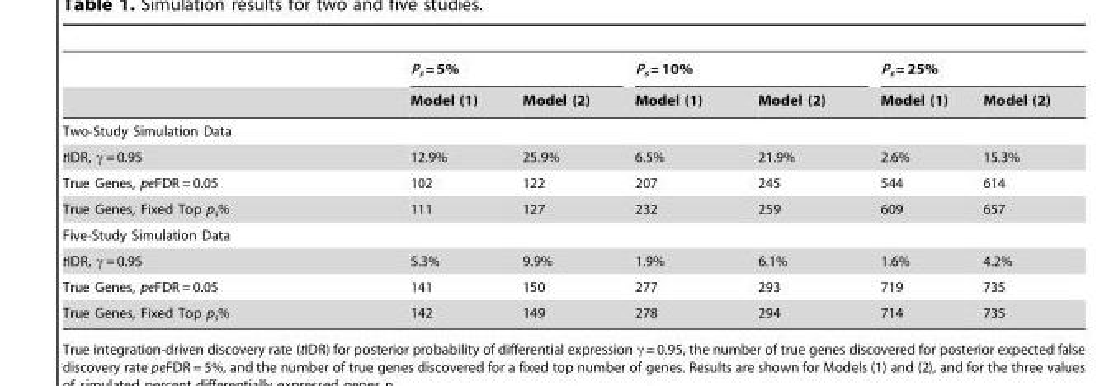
<table><thead><tr><td rowspan="2"></td><td colspan="2">P<sub>s</sub> = 5%</td><td colspan="2">P<sub>s</sub> = 10%</td><td colspan="2">P<sub>s</sub> = 25%</td></tr><tr><td>Model (1)</td><td>Model (2)</td><td>Model (1)</td><td>Model (2)</td><td>Model (1)</td><td>Model (2)</td></tr></thead><tbody><tr><td colspan="7">Two-Study Simulation Data</td></tr><tr><td>tIDR, γ = 0.95</td><td>12.9%</td><td>25.9%</td><td>6.5%</td><td>21.9%</td><td>2.6%</td><td>15.3%</td></tr><tr><td>True Genes, peFDR = 0.05</td><td>102</td><td>122</td><td>207</td><td>245</td><td>544</td><td>614</td></tr><tr><td>True Genes, Fixed Top p<sub>s</sub>%</td><td>111</td><td>127</td><td>232</td><td>259</td><td>609</td><td>657</td></tr><tr><td colspan="7">Five-Study Simulation Data</td></tr><tr><td>tIDR, γ = 0.95</td><td>5.3%</td><td>9.9%</td><td>1.9%</td><td>6.1%</td><td>1.6%</td><td>4.2%</td></tr><tr><td>True Genes, peFDR = 0.05</td><td>141</td><td>150</td><td>277</td><td>293</td><td>719</td><td>735</td></tr><tr><td>True Genes, Fixed Top p<sub>s</sub>%</td><td>142</td><td>149</td><td>278</td><td>294</td><td>714</td><td>735</td></tr></tbody></table>